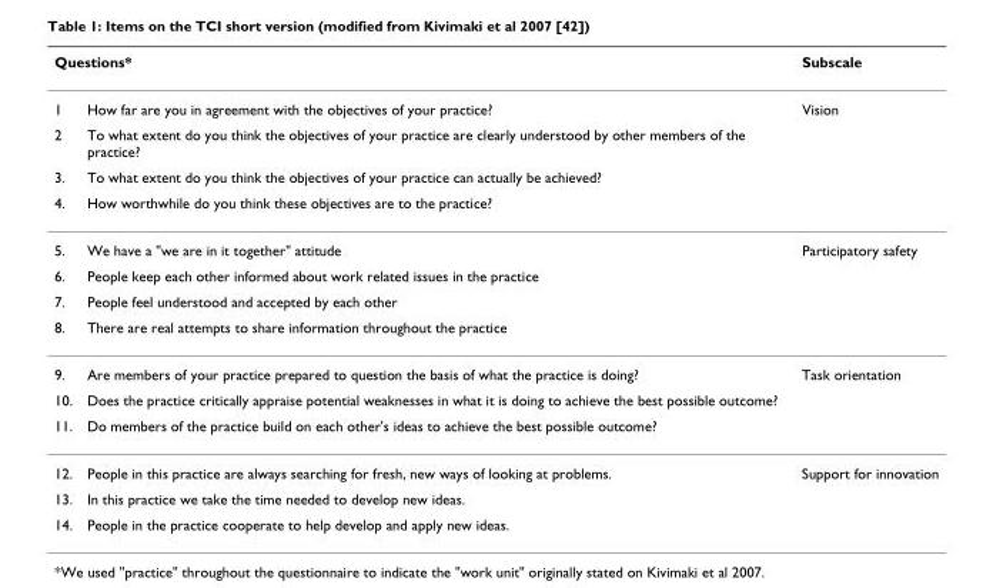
<table><thead><tr><td colspan="2">Questions*</td><td rowspan="2">Subscale Vision</td></tr><tr><td>1</td><td>How far are you in agreement with the objectives of your practice?</td></tr></thead><tbody><tr><td>2</td><td>To what extent do you think the objectives of your practice are clearly understood by other members of the practice?</td><td></td></tr><tr><td>3.</td><td>To what extent do you think the objectives of your practice can actually be achieved?</td><td></td></tr><tr><td>4.</td><td>How worthwhile do you think these objectives are to the practice?</td><td></td></tr><tr><td>5.</td><td>We have a &quot;we are in it together&quot; attitude</td><td>Participatory safety</td></tr><tr><td>6.</td><td>People keep each other informed about work related issues in the practice</td><td></td></tr><tr><td>7.</td><td>People feel understood and accepted by each other</td><td></td></tr><tr><td>8.</td><td>There are real attempts to share information throughout the practice</td><td></td></tr><tr><td>9.</td><td>Are members of your practice prepared to question the basis of what the practice is doing?</td><td>Task orientation</td></tr><tr><td>10.</td><td>Does the practice critically appraise potential weaknesses in what it is doing to achieve the best possible outcome?</td><td></td></tr><tr><td>11.</td><td>Do members of the practice build on each other&#x27;s ideas to achieve the best possible outcome?</td><td></td></tr><tr><td>12.</td><td>People in this practice are always searching for fresh, new ways of looking at problems.</td><td>Support for innovation</td></tr><tr><td>13.</td><td>In this practice we take the time needed to develop new ideas.</td><td></td></tr><tr><td>14.</td><td>People in the practice cooperate to help develop and apply new ideas.</td><td></td></tr></tbody></table>